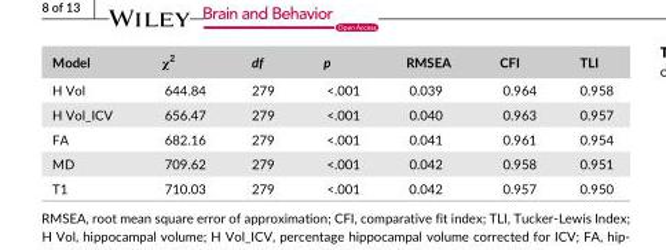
<table><thead><tr><td>Model</td><td>χ<sup>2</sup></td><td>df</td><td>p</td><td>RMSEA</td><td>CFI</td><td>TLI</td></tr></thead><tbody><tr><td>H Vol</td><td>644.84</td><td>279</td><td>&lt;.001</td><td>0.039</td><td>0.964</td><td>0.958</td></tr><tr><td>H Vol_ICV</td><td>656.47</td><td>279</td><td>&lt;.001</td><td>0.040</td><td>0.963</td><td>0.957</td></tr><tr><td>FA</td><td>682.16</td><td>279</td><td>&lt;.001</td><td>0.041</td><td>0.961</td><td>0.954</td></tr><tr><td>MD</td><td>709.62</td><td>279</td><td>&lt;.001</td><td>0.042</td><td>0.958</td><td>0.951</td></tr><tr><td>T1</td><td>710.03</td><td>279</td><td>&lt;.001</td><td>0.042</td><td>0.957</td><td>0.950</td></tr></tbody></table>